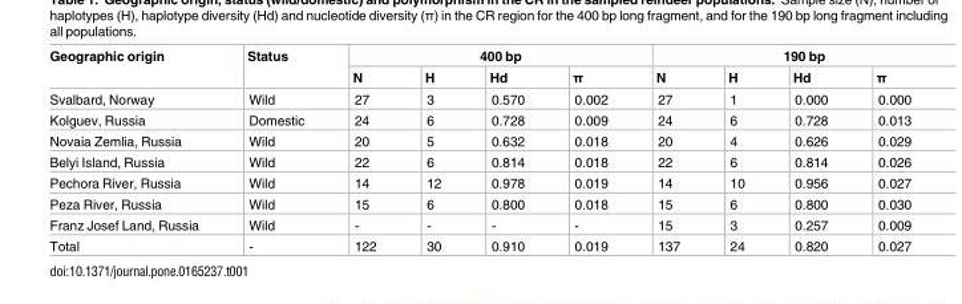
<table><thead><tr><td rowspan="2">Geographic origin</td><td rowspan="2">Status</td><td colspan="4">400 bp</td><td colspan="4">190 bp</td></tr><tr><td>N</td><td>H</td><td>Hd</td><td>π</td><td>N</td><td>H</td><td>Hd</td><td>π</td></tr></thead><tbody><tr><td>Svalbard, Norway</td><td>Wild</td><td>27</td><td>3</td><td>0.570</td><td>0.002</td><td>27</td><td>1</td><td>0.000</td><td>0.000</td></tr><tr><td>Kolguev, Russia</td><td>Domestic</td><td>24</td><td>6</td><td>0.728</td><td>0.009</td><td>24</td><td>6</td><td>0.728</td><td>0.013</td></tr><tr><td>Novaia Zemlia, Russia</td><td>Wild</td><td>20</td><td>5</td><td>0.632</td><td>0.018</td><td>20</td><td>4</td><td>0.626</td><td>0.029</td></tr><tr><td>Belyi Island, Russia</td><td>Wild</td><td>22</td><td>6</td><td>0.814</td><td>0.018</td><td>22</td><td>6</td><td>0.814</td><td>0.026</td></tr><tr><td>Pechora River, Russia</td><td>Wild</td><td>14</td><td>12</td><td>0.978</td><td>0.019</td><td>14</td><td>10</td><td>0.956</td><td>0.027</td></tr><tr><td>Peza River, Russia</td><td>Wild</td><td>15</td><td>6</td><td>0.800</td><td>0.018</td><td>15</td><td>6</td><td>0.800</td><td>0.030</td></tr><tr><td>Franz Josef Land, Russia</td><td>Wild</td><td>-</td><td>-</td><td>-</td><td>-</td><td>15</td><td>3</td><td>0.257</td><td>0.009</td></tr><tr><td>Total</td><td>-</td><td>122</td><td>30</td><td>0.910</td><td>0.019</td><td>137</td><td>24</td><td>0.820</td><td>0.027</td></tr></tbody></table>